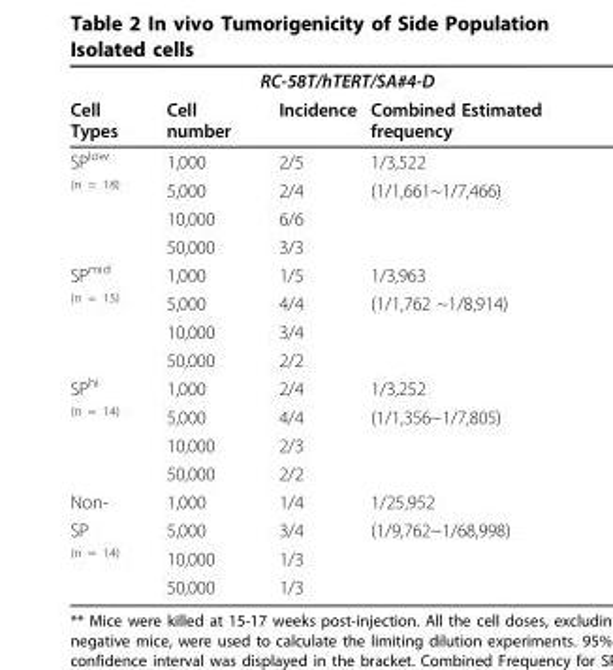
<table><thead><tr><td colspan="4">RC-58T/hTERT/SA#4-D</td></tr><tr><td>Cell Types</td><td>Cell number</td><td>Incidence</td><td>Combined Estimated frequency</td></tr></thead><tbody><tr><td>SP<sup>low</sup></td><td>1,000</td><td>2/5</td><td>1/3,522</td></tr><tr><td rowspan="3"><sup>(n = 18)</sup></td><td>5,000</td><td>2/4</td><td>(1/1,661~1/7,466)</td></tr><tr><td>10,000</td><td>6/6</td><td></td></tr><tr><td>50,000</td><td>3/3</td><td></td></tr><tr><td>SP<sup>mid</sup></td><td>1,000</td><td>1/5</td><td>1/3,963</td></tr><tr><td rowspan="3"><sup>(n = 15)</sup></td><td>5,000</td><td>4/4</td><td>(1/1,762 ~1/8,914)</td></tr><tr><td>10,000</td><td>3/4</td><td></td></tr><tr><td>50,000</td><td>2/2</td><td></td></tr><tr><td>SP<sup>hi</sup></td><td>1,000</td><td>2/4</td><td>1/3,252</td></tr><tr><td rowspan="3"><sup>(n = 14)</sup></td><td>5,000</td><td>4/4</td><td>(1/1,356~1/7,805)</td></tr><tr><td>10,000</td><td>2/3</td><td></td></tr><tr><td>50,000</td><td>2/2</td><td></td></tr><tr><td>Non-</td><td>1,000</td><td>1/4</td><td>1/25,952</td></tr><tr><td>SP</td><td>5,000</td><td>3/4</td><td>(1/9,762~1/68,998)</td></tr><tr><td rowspan="2"><sup>(n = 14)</sup></td><td>10,000</td><td>1/3</td><td></td></tr><tr><td>50,000</td><td>1/3</td><td></td></tr></tbody></table>